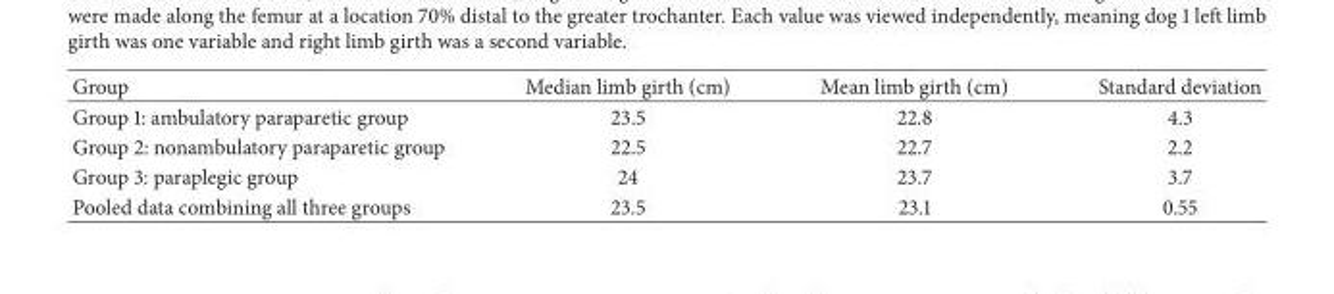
<table><thead><tr><td>Group</td><td>Median limb girth (cm)</td><td>Mean limb girth (cm)</td><td>Standard deviation</td></tr></thead><tbody><tr><td>Group 1: ambulatory paraparetic group</td><td>23.5</td><td>22.8</td><td>4.3</td></tr><tr><td>Group 2: nonambulatory paraparetic group</td><td>22.5</td><td>22.7</td><td>2.2</td></tr><tr><td>Group 3: paraplegic group</td><td>24</td><td>23.7</td><td>3.7</td></tr><tr><td>Pooled data combining all three groups</td><td>23.5</td><td>23.1</td><td>0.55</td></tr></tbody></table>